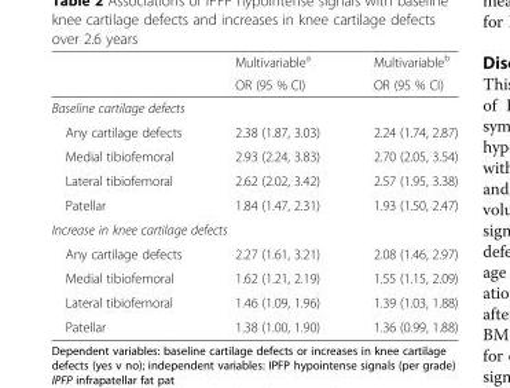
<table><thead><tr><td rowspan="2"></td><td rowspan="2">Multivariable<sup>a</sup> OR (95 % CI)</td><td rowspan="2">Multivariable<sup>b</sup> OR (95 % CI)</td></tr><tr></tr></thead><tbody><tr><td colspan="3">Baseline cartilage defects</td></tr><tr><td>Any cartilage defects</td><td>2.38 (1.87, 3.03)</td><td>2.24 (1.74, 2.87)</td></tr><tr><td>Medial tibiofemoral</td><td>2.93 (2.24, 3.83)</td><td>2.70 (2.05, 3.54)</td></tr><tr><td>Lateral tibiofemoral</td><td>2.62 (2.02, 3.42)</td><td>2.57 (1.95, 3.38)</td></tr><tr><td>Patellar</td><td>1.84 (1.47, 2.31)</td><td>1.93 (1.50, 2.47)</td></tr><tr><td colspan="3">Increase in knee cartilage defects</td></tr><tr><td>Any cartilage defects</td><td>2.27 (1.61, 3.21)</td><td>2.08 (1.46, 2.97)</td></tr><tr><td>Medial tibiofemoral</td><td>1.62 (1.21, 2.19)</td><td>1.55 (1.15, 2.09)</td></tr><tr><td>Lateral tibiofemoral</td><td>1.46 (1.09, 1.96)</td><td>1.39 (1.03, 1.88)</td></tr><tr><td>Patellar</td><td>1.38 (1.00, 1.90)</td><td>1.36 (0.99, 1.88)</td></tr></tbody></table>